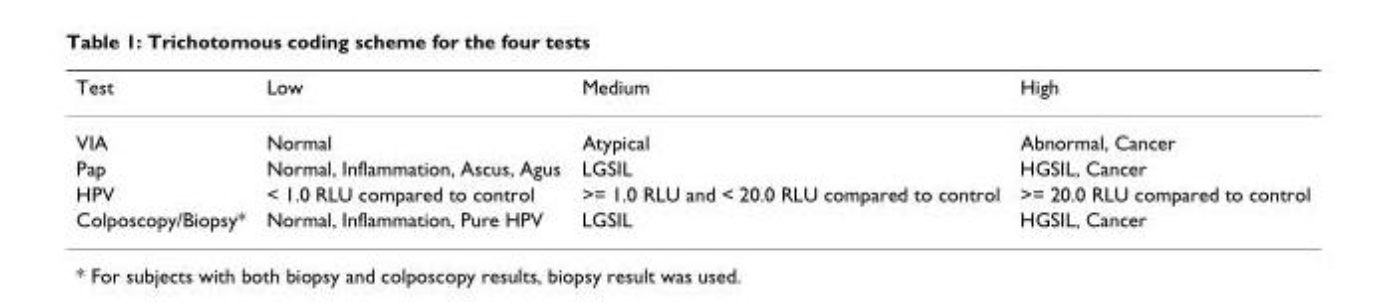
<table><thead><tr><td>Test</td><td>Low</td><td>Medium</td><td>High</td></tr></thead><tbody><tr><td>VIA</td><td>Normal</td><td>Atypical</td><td>Abnormal, Cancer</td></tr><tr><td>Pap</td><td>Normal, Inflammation, Ascus, Agus</td><td>LGSIL</td><td>HGSIL, Cancer</td></tr><tr><td>HPV</td><td>&lt; 1.0 RLU compared to control</td><td>&gt;= 1.0 RLU and &lt; 20.0 RLU compared to control</td><td>&gt;= 20.0 RLU compared to control</td></tr><tr><td>Colposcopy/Biopsy*</td><td>Normal, Inflammation, Pure HPV</td><td>LGSIL</td><td>HGSIL, Cancer</td></tr></tbody></table>